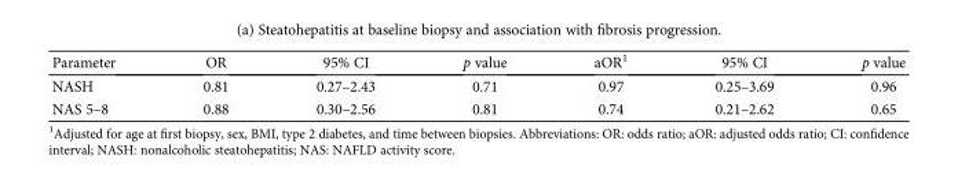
<table><thead><tr><td>Parameter</td><td>OR</td><td>95% CI</td><td>p value</td><td>aOR<sup>1</sup></td><td>95% CI</td><td>p value</td></tr></thead><tbody><tr><td>NASH</td><td>0.81</td><td>0.27–2.43</td><td>0.71</td><td>0.97</td><td>0.25–3.69</td><td>0.96</td></tr><tr><td>NAS 5–8</td><td>0.88</td><td>0.30–2.56</td><td>0.81</td><td>0.74</td><td>0.21–2.62</td><td>0.65</td></tr></tbody></table>